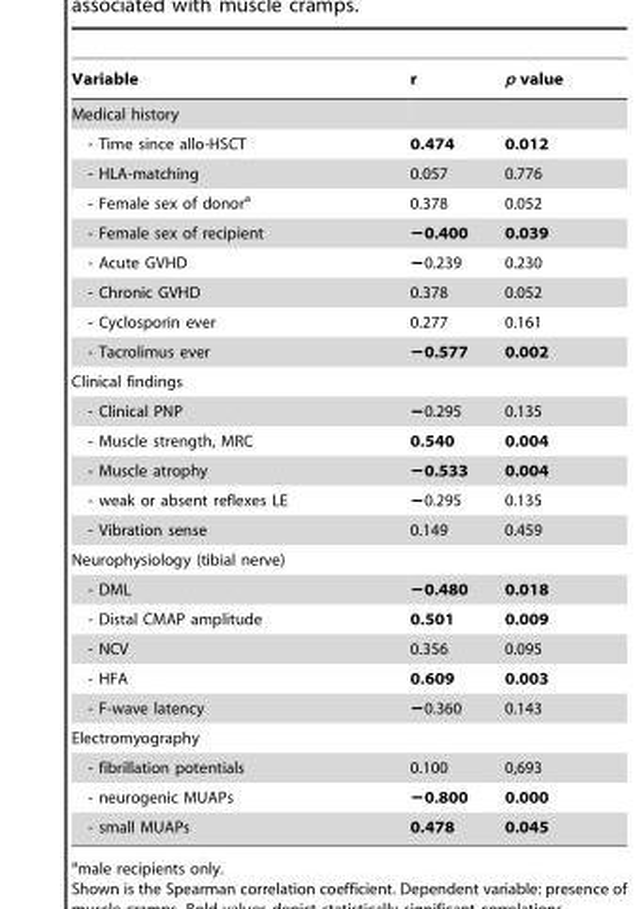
<table><thead><tr><td>Variable</td><td>r</td><td>p value</td></tr></thead><tbody><tr><td colspan="3">Medical history</td></tr><tr><td>- Time since allo-HSCT</td><td>0.474</td><td>0.012</td></tr><tr><td>- HLA-matching</td><td>0.057</td><td>0.776</td></tr><tr><td>- Female sex of donor<sup>a</sup></td><td>0.378</td><td>0.052</td></tr><tr><td>- Female sex of recipient</td><td>−0.400</td><td>0.039</td></tr><tr><td>- Acute GVHD</td><td>−0.239</td><td>0.230</td></tr><tr><td>- Chronic GVHD</td><td>0.378</td><td>0.052</td></tr><tr><td>- Cyclosporin ever</td><td>0.277</td><td>0.161</td></tr><tr><td>- Tacrolimus ever</td><td>−0.577</td><td>0.002</td></tr><tr><td colspan="3">Clinical findings</td></tr><tr><td>- Clinical PNP</td><td>−0.295</td><td>0.135</td></tr><tr><td>- Muscle strength, MRC</td><td>0.540</td><td>0.004</td></tr><tr><td>- Muscle atrophy</td><td>−0.533</td><td>0.004</td></tr><tr><td>- weak or absent reflexes LE</td><td>−0.295</td><td>0.135</td></tr><tr><td>- Vibration sense</td><td>0.149</td><td>0.459</td></tr><tr><td colspan="3">Neurophysiology (tibial nerve)</td></tr><tr><td>- DML</td><td>−0.480</td><td>0.018</td></tr><tr><td>- Distal CMAP amplitude</td><td>0.501</td><td>0.009</td></tr><tr><td>- NCV</td><td>0.356</td><td>0.095</td></tr><tr><td>- HFA</td><td>0.609</td><td>0.003</td></tr><tr><td>- F-wave latency</td><td>−0.360</td><td>0.143</td></tr><tr><td colspan="3">Electromyography</td></tr><tr><td>- fibrillation potentials</td><td>0.100</td><td>0,693</td></tr><tr><td>- neurogenic MUAPs</td><td>−0.800</td><td>0.000</td></tr><tr><td>- small MUAPs</td><td>0.478</td><td>0.045</td></tr></tbody></table>